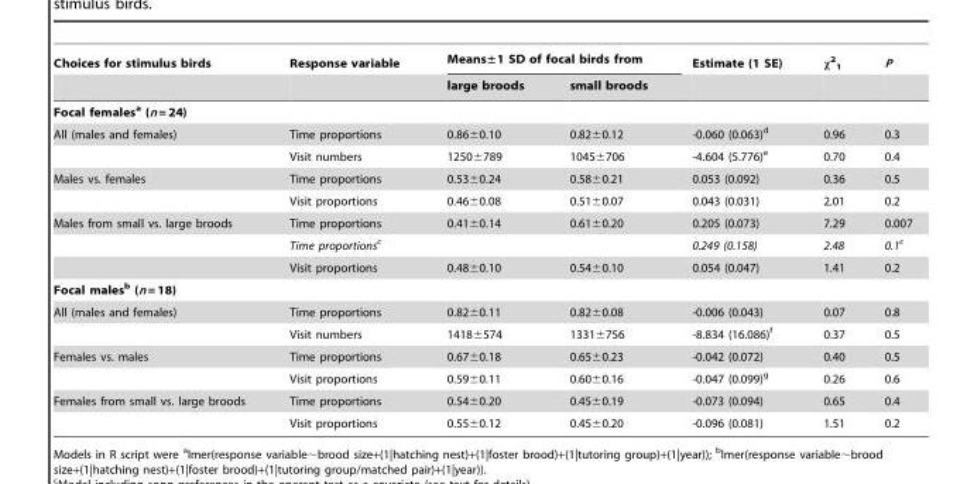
<table><thead><tr><td rowspan="2">Choices for stimulus birds</td><td rowspan="2">Response variable</td><td colspan="2">Means±1 SD of focal birds from</td><td rowspan="2">Estimate (1 SE)</td><td rowspan="2">χ<sup>2</sup> <sub>1</sub></td><td rowspan="2">P</td></tr><tr><td>large broods</td><td>small broods</td></tr></thead><tbody><tr><td colspan="7">Focal femalesa (n = 24)</td></tr><tr><td rowspan="2">All (males and females)</td><td>Time proportions</td><td>0.86±0.10</td><td>0.82±0.12</td><td>-0.060 (0.063)<sup>d</sup></td><td>0.96</td><td>0.3</td></tr><tr><td>Visit numbers</td><td>1250±789</td><td>1045±706</td><td>-4.604 (5.776)<sup>e</sup></td><td>0.70</td><td>0.4</td></tr><tr><td rowspan="2">Males vs. females</td><td>Time proportions</td><td>0.53±0.24</td><td>0.58±0.21</td><td>0.053 (0.092)</td><td>0.36</td><td>0.5</td></tr><tr><td>Visit proportions</td><td>0.46±0.08</td><td>0.51±0.07</td><td>0.043 (0.031)</td><td>2.01</td><td>0.2</td></tr><tr><td rowspan="3">Males from small vs. large broods</td><td>Time proportions</td><td>0.41±0.14</td><td>0.61±0.20</td><td>0.205 (0.073)</td><td>7.29</td><td>0.007</td></tr><tr><td>Time proportionsc</td><td></td><td></td><td>0.249 (0.158)</td><td>2.48</td><td>0.1c</td></tr><tr><td>Visit proportions</td><td>0.48±0.10</td><td>0.54±0.10</td><td>0.054 (0.047)</td><td>1.41</td><td>0.2</td></tr><tr><td colspan="7">Focal malesb (n = 18)</td></tr><tr><td rowspan="2">All (males and females)</td><td>Time proportions</td><td>0.82±0.11</td><td>0.82±0.08</td><td>-0.006 (0.043)</td><td>0.07</td><td>0.8</td></tr><tr><td>Visit numbers</td><td>1418±574</td><td>1331±756</td><td>-8.834 (16.086)<sup>f</sup></td><td>0.37</td><td>0.5</td></tr><tr><td rowspan="2">Females vs. males</td><td>Time proportions</td><td>0.67±0.18</td><td>0.65±0.23</td><td>-0.042 (0.072)</td><td>0.40</td><td>0.5</td></tr><tr><td>Visit proportions</td><td>0.59±0.11</td><td>0.60±0.16</td><td>-0.047 (0.099)<sup>g</sup></td><td>0.26</td><td>0.6</td></tr><tr><td rowspan="2">Females from small vs. large broods</td><td>Time proportions</td><td>0.54±0.20</td><td>0.45±0.19</td><td>-0.073 (0.094)</td><td>0.65</td><td>0.4</td></tr><tr><td>Visit proportions</td><td>0.55±0.12</td><td>0.45±0.20</td><td>-0.096 (0.081)</td><td>1.51</td><td>0.2</td></tr></tbody></table>